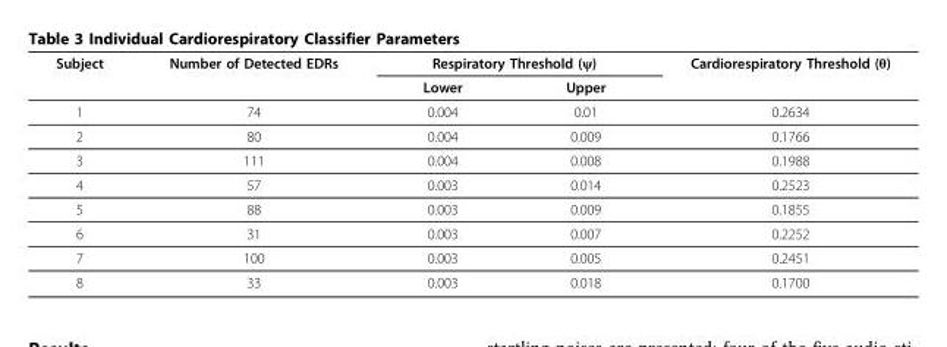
<table><thead><tr><td rowspan="2">Subject</td><td rowspan="2">Number of Detected EDRs</td><td colspan="2">Respiratory Threshold (ψ)</td><td rowspan="2">Cardiorespiratory Threshold (θ)</td></tr><tr><td>Lower</td><td>Upper</td></tr></thead><tbody><tr><td>1</td><td>74</td><td>0.004</td><td>0.01</td><td>0.2634</td></tr><tr><td>2</td><td>80</td><td>0.004</td><td>0.009</td><td>0.1766</td></tr><tr><td>3</td><td>111</td><td>0.004</td><td>0.008</td><td>0.1988</td></tr><tr><td>4</td><td>57</td><td>0.003</td><td>0.014</td><td>0.2523</td></tr><tr><td>5</td><td>88</td><td>0.003</td><td>0.009</td><td>0.1855</td></tr><tr><td>6</td><td>31</td><td>0.003</td><td>0.007</td><td>0.2252</td></tr><tr><td>7</td><td>100</td><td>0.003</td><td>0.005</td><td>0.2451</td></tr><tr><td>8</td><td>33</td><td>0.003</td><td>0.018</td><td>0.1700</td></tr></tbody></table>